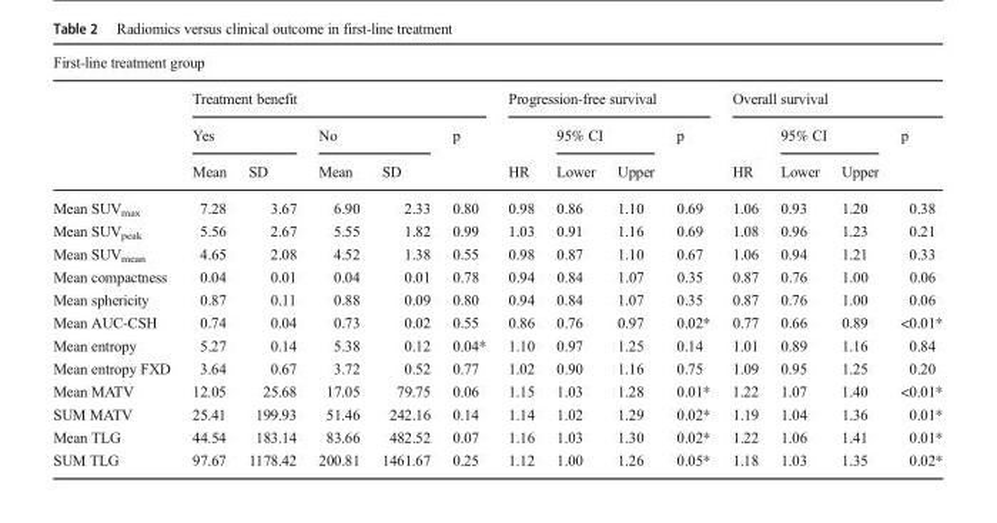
<table><thead><tr><td colspan="14">First-line treatment group</td></tr><tr><td rowspan="3"></td><td colspan="5">Treatment benefit</td><td colspan="4">Progression-free survival</td><td colspan="4">Overall survival</td></tr><tr><td colspan="2">Yes</td><td colspan="2">No</td><td rowspan="2">p</td><td rowspan="2">HR</td><td colspan="2">95% CI</td><td rowspan="2">p</td><td rowspan="2">HR</td><td colspan="2">95% CI</td><td rowspan="2">p</td></tr><tr><td>Mean</td><td>SD</td><td>Mean</td><td>SD</td><td>Lower</td><td>Upper</td><td>Lower</td><td>Upper</td></tr></thead><tbody><tr><td>Mean SUV<sub>max</sub></td><td>7.28</td><td>3.67</td><td>6.90</td><td>2.33</td><td>0.80</td><td>0.98</td><td>0.86</td><td>1.10</td><td>0.69</td><td>1.06</td><td>0.93</td><td>1.20</td><td>0.38</td></tr><tr><td>Mean SUV<sub>peak</sub></td><td>5.56</td><td>2.67</td><td>5.55</td><td>1.82</td><td>0.99</td><td>1.03</td><td>0.91</td><td>1.16</td><td>0.69</td><td>1.08</td><td>0.96</td><td>1.23</td><td>0.21</td></tr><tr><td>Mean SUV<sub>mean</sub></td><td>4.65</td><td>2.08</td><td>4.52</td><td>1.38</td><td>0.55</td><td>0.98</td><td>0.87</td><td>1.10</td><td>0.67</td><td>1.06</td><td>0.94</td><td>1.21</td><td>0.33</td></tr><tr><td>Mean compactness</td><td>0.04</td><td>0.01</td><td>0.04</td><td>0.01</td><td>0.78</td><td>0.94</td><td>0.84</td><td>1.07</td><td>0.35</td><td>0.87</td><td>0.76</td><td>1.00</td><td>0.06</td></tr><tr><td>Mean sphericity</td><td>0.87</td><td>0.11</td><td>0.88</td><td>0.09</td><td>0.80</td><td>0.94</td><td>0.84</td><td>1.07</td><td>0.35</td><td>0.87</td><td>0.76</td><td>1.00</td><td>0.06</td></tr><tr><td>Mean AUC-CSH</td><td>0.74</td><td>0.04</td><td>0.73</td><td>0.02</td><td>0.55</td><td>0.86</td><td>0.76</td><td>0.97</td><td>0.02*</td><td>0.77</td><td>0.66</td><td>0.89</td><td>&lt;0.01*</td></tr><tr><td>Mean entropy</td><td>5.27</td><td>0.14</td><td>5.38</td><td>0.12</td><td>0.04*</td><td>1.10</td><td>0.97</td><td>1.25</td><td>0.14</td><td>1.01</td><td>0.89</td><td>1.16</td><td>0.84</td></tr><tr><td>Mean entropy FXD</td><td>3.64</td><td>0.67</td><td>3.72</td><td>0.52</td><td>0.77</td><td>1.02</td><td>0.90</td><td>1.16</td><td>0.75</td><td>1.09</td><td>0.95</td><td>1.25</td><td>0.20</td></tr><tr><td>Mean MATV</td><td>12.05</td><td>25.68</td><td>17.05</td><td>79.75</td><td>0.06</td><td>1.15</td><td>1.03</td><td>1.28</td><td>0.01*</td><td>1.22</td><td>1.07</td><td>1.40</td><td>&lt;0.01*</td></tr><tr><td>SUM MATV</td><td>25.41</td><td>199.93</td><td>51.46</td><td>242.16</td><td>0.14</td><td>1.14</td><td>1.02</td><td>1.29</td><td>0.02*</td><td>1.19</td><td>1.04</td><td>1.36</td><td>0.01*</td></tr><tr><td>Mean TLG</td><td>44.54</td><td>183.14</td><td>83.66</td><td>482.52</td><td>0.07</td><td>1.16</td><td>1.03</td><td>1.30</td><td>0.02*</td><td>1.22</td><td>1.06</td><td>1.41</td><td>0.01*</td></tr><tr><td>SUM TLG</td><td>97.67</td><td>1178.42</td><td>200.81</td><td>1461.67</td><td>0.25</td><td>1.12</td><td>1.00</td><td>1.26</td><td>0.05*</td><td>1.18</td><td>1.03</td><td>1.35</td><td>0.02*</td></tr></tbody></table>